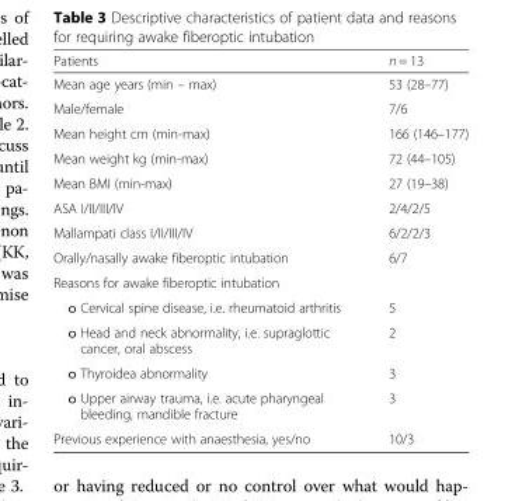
<table><thead><tr><td>Patients</td><td>n = 13</td></tr></thead><tbody><tr><td>Mean age years (min – max)</td><td>53 (28–77)</td></tr><tr><td>Male/female</td><td>7/6</td></tr><tr><td>Mean height cm (min-max)</td><td>166 (146–177)</td></tr><tr><td>Mean weight kg (min-max)</td><td>72 (44–105)</td></tr><tr><td>Mean BMI (min-max)</td><td>27 (19–38)</td></tr><tr><td>ASA I/II/III/IV</td><td>2/4/2/5</td></tr><tr><td>Mallampati class I/II/III/IV</td><td>6/2/2/3</td></tr><tr><td>Orally/nasally awake fiberoptic intubation</td><td>6/7</td></tr><tr><td colspan="2">Reasons for awake fiberoptic intubation</td></tr><tr><td>o Cervical spine disease, i.e. rheumatoid arthritis</td><td>5</td></tr><tr><td>o Head and neck abnormality, i.e. supraglottic cancer, oral abscess</td><td>2</td></tr><tr><td>o Thyroidea abnormality</td><td>3</td></tr><tr><td>o Upper airway trauma, i.e. acute pharyngeal bleeding, mandible fracture</td><td>3</td></tr><tr><td>Previous experience with anaesthesia, yes/no</td><td>10/3</td></tr></tbody></table>